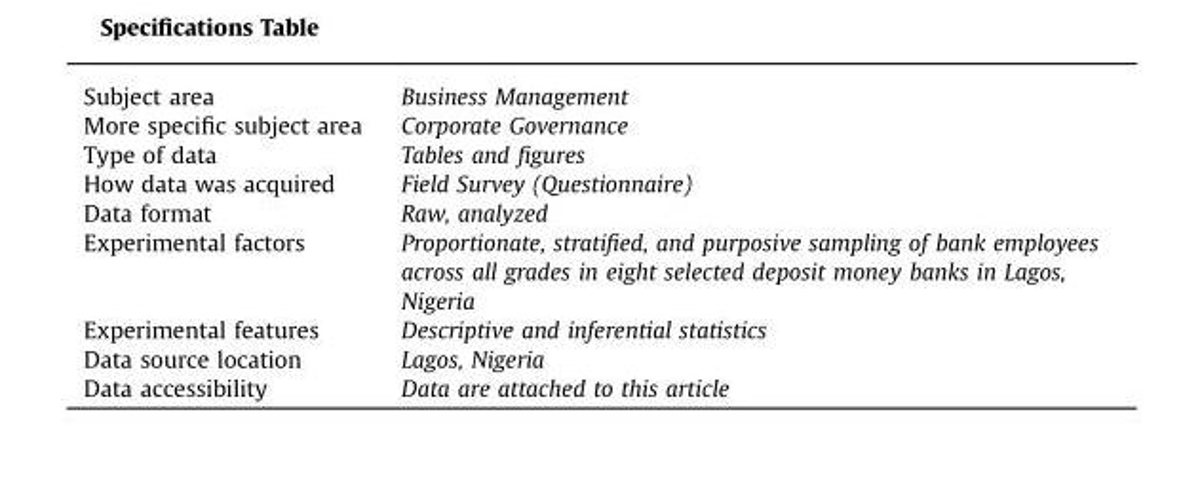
<table><tbody><tr><td>Subject area</td><td>Business Management</td></tr><tr><td>More specific subject area</td><td>Corporate Governance</td></tr><tr><td>Type of data</td><td>Tables and figures</td></tr><tr><td>How data was acquired</td><td>Field Survey (Questionnaire)</td></tr><tr><td>Data format</td><td>Raw, analyzed</td></tr><tr><td>Experimental factors</td><td>Proportionate, stratified, and purposive sampling of bank employees across all grades in eight selected deposit money banks in Lagos, Nigeria</td></tr><tr><td>Experimental features</td><td>Descriptive and inferential statistics</td></tr><tr><td>Data source location</td><td>Lagos, Nigeria</td></tr><tr><td>Data accessibility</td><td>Data are attached to this article</td></tr></tbody></table>